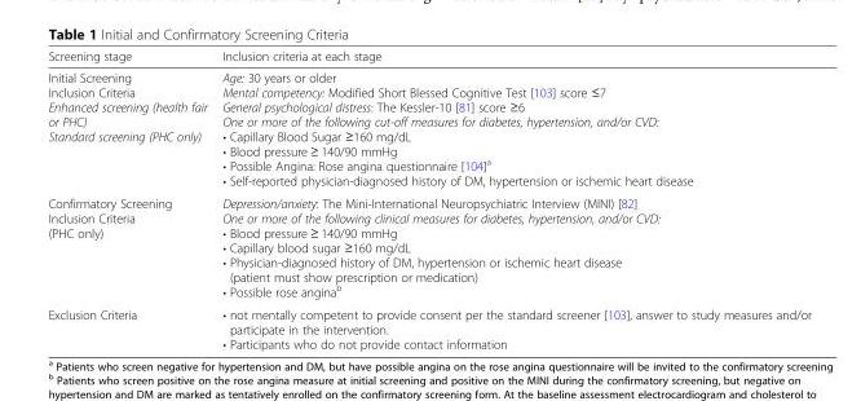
<table><thead><tr><td>Screening stage</td><td>Inclusion criteria at each stage</td></tr></thead><tbody><tr><td>Initial Screening Inclusion Criteria Enhanced screening (health fair or PHC) Standard screening (PHC only)</td><td>Age: 30 years or older Mental competency: Modified Short Blessed Cognitive Test [103] score ≤7 General psychological distress: The Kessler-10 [81] score ≥6 One or more of the following cut-off measures for diabetes, hypertension, and/or CVD: • Capillary Blood Sugar ≥160 mg/dL • Blood pressure ≥ 140/90 mmHg • Possible Angina: Rose angina questionnaire [104]<sup>a</sup> • Self-reported physician-diagnosed history of DM, hypertension or ischemic heart disease</td></tr><tr><td>Confirmatory Screening Inclusion Criteria (PHC only)</td><td>Depression/anxiety: The Mini-International Neuropsychiatric Interview (MINI) [82] One or more of the following clinical measures for diabetes, hypertension, and/or CVD: • Blood pressure ≥ 140/90 mmHg • Capillary blood sugar ≥160 mg/dL • Physician-diagnosed history of DM, hypertension or ischemic heart disease (patient must show prescription or medication) • Possible rose angina<sup>b</sup></td></tr><tr><td>Exclusion Criteria</td><td>• not mentally competent to provide consent per the standard screener [103], answer to study measures and/or participate in the intervention. • Participants who do not provide contact information</td></tr></tbody></table>